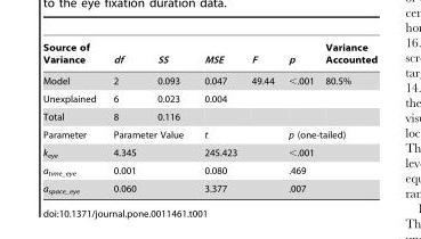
<table><thead><tr><td>Source of Variance</td><td>df</td><td>SS</td><td>MSE</td><td>F</td><td>p</td><td>Variance Accounted</td></tr></thead><tbody><tr><td>Model</td><td>2</td><td>0.093</td><td>0.047</td><td>49.44</td><td>&lt;.001</td><td>80.5%</td></tr><tr><td>Unexplained</td><td>6</td><td>0.023</td><td>0.004</td><td></td><td></td><td></td></tr><tr><td>Total</td><td>8</td><td>0.116</td><td></td><td></td><td></td><td></td></tr><tr><td>Parameter</td><td colspan="2">Parameter Value</td><td colspan="2">t</td><td colspan="2">p (one-tailed)</td></tr><tr><td>k<sub>eye</sub></td><td colspan="2">4.345</td><td colspan="2">245.423</td><td colspan="2">&lt;.001</td></tr><tr><td>a<sub>time_eye</sub></td><td colspan="2">0.001</td><td colspan="2">0.080</td><td colspan="2">.469</td></tr><tr><td>a<sub>space_eye</sub></td><td colspan="2">0.060</td><td colspan="2">3.377</td><td colspan="2">.007</td></tr></tbody></table>